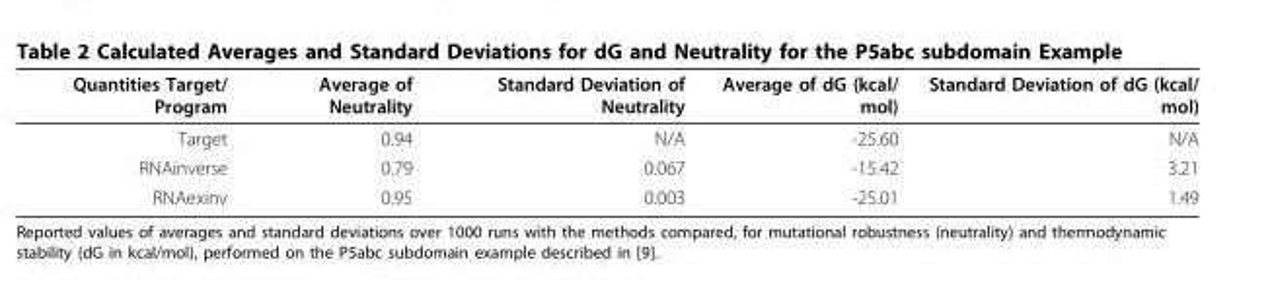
<table><thead><tr><td>Quantities Target/ Program</td><td>Average of Neutrality</td><td>Standard Deviation of Neutrality</td><td>Average of dG (kcal/ mol)</td><td>Standard Deviation of dG (kcal/ mol)</td></tr></thead><tbody><tr><td>Target</td><td>0.94</td><td>N/A</td><td>-25.60</td><td>N/A</td></tr><tr><td>RNAinverse</td><td>0.79</td><td>0.067</td><td>-15.42</td><td>3.21</td></tr><tr><td>RNAexinv</td><td>0.95</td><td>0.003</td><td>-25.01</td><td>1.49</td></tr></tbody></table>